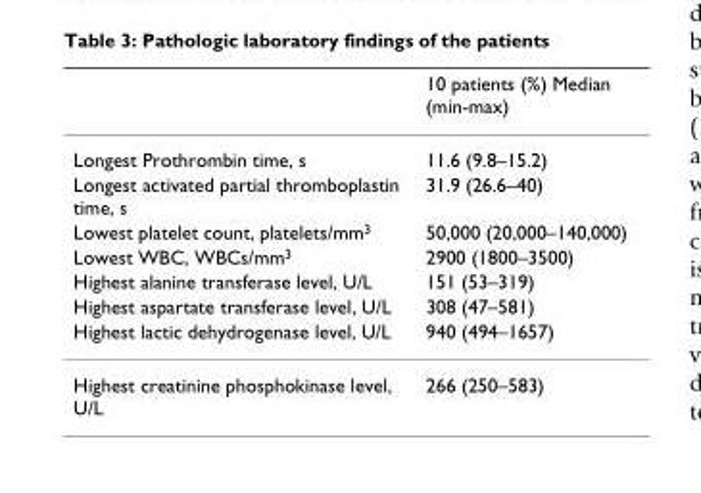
<table><thead><tr><td></td><td>10 patients (%) Median (min-max)</td></tr></thead><tbody><tr><td>Longest Prothrombin time, s</td><td>11.6 (9.8–15.2)</td></tr><tr><td>Longest activated partial thromboplastin time, s</td><td>31.9 (26.6–40)</td></tr><tr><td>Lowest platelet count, platelets/mm<sup>3</sup></td><td>50,000 (20,000–140,000)</td></tr><tr><td>Lowest WBC, WBCs/mm<sup>3</sup></td><td>2900 (1800–3500)</td></tr><tr><td>Highest alanine transferase level, U/L</td><td>151 (53–319)</td></tr><tr><td>Highest aspartate transferase level, U/L</td><td>308 (47–581)</td></tr><tr><td>Highest lactic dehydrogenase level, U/L</td><td>940 (494–1657)</td></tr><tr><td>Highest creatinine phosphokinase level, U/L</td><td>266 (250–583)</td></tr></tbody></table>